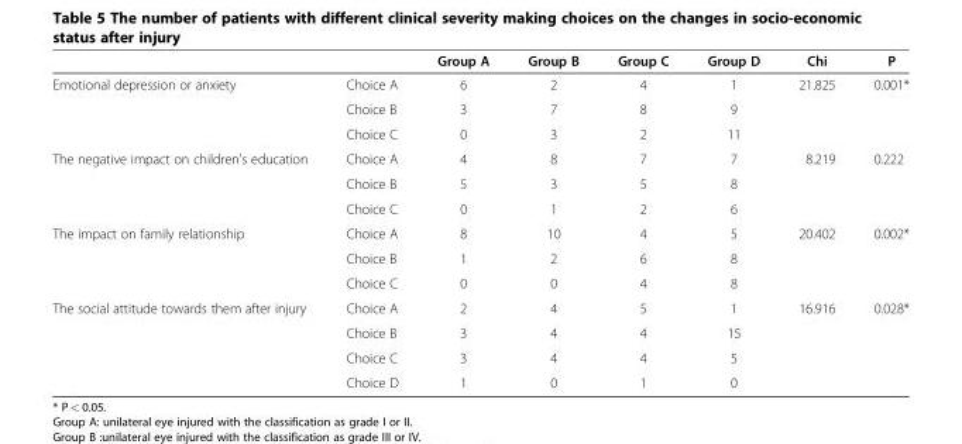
<table><thead><tr><td></td><td></td><td>Group A</td><td>Group B</td><td>Group C</td><td>Group D</td><td>Chi</td><td>P</td></tr></thead><tbody><tr><td rowspan="3">Emotional depression or anxiety</td><td>Choice A</td><td>6</td><td>2</td><td>4</td><td>1</td><td>21.825</td><td>0.001*</td></tr><tr><td>Choice B</td><td>3</td><td>7</td><td>8</td><td>9</td><td></td><td></td></tr><tr><td>Choice C</td><td>0</td><td>3</td><td>2</td><td>11</td><td></td><td></td></tr><tr><td rowspan="3">The negative impact on children&#x27;s education</td><td>Choice A</td><td>4</td><td>8</td><td>7</td><td>7</td><td>8.219</td><td>0.222</td></tr><tr><td>Choice B</td><td>5</td><td>3</td><td>5</td><td>8</td><td></td><td></td></tr><tr><td>Choice C</td><td>0</td><td>1</td><td>2</td><td>6</td><td></td><td></td></tr><tr><td rowspan="3">The impact on family relationship</td><td>Choice A</td><td>8</td><td>10</td><td>4</td><td>5</td><td>20.402</td><td>0.002*</td></tr><tr><td>Choice B</td><td>1</td><td>2</td><td>6</td><td>8</td><td></td><td></td></tr><tr><td>Choice C</td><td>0</td><td>0</td><td>4</td><td>8</td><td></td><td></td></tr><tr><td rowspan="4">The social attitude towards them after injury</td><td>Choice A</td><td>2</td><td>4</td><td>5</td><td>1</td><td>16.916</td><td>0.028*</td></tr><tr><td>Choice B</td><td>3</td><td>4</td><td>4</td><td>15</td><td></td><td></td></tr><tr><td>Choice C</td><td>3</td><td>4</td><td>4</td><td>5</td><td></td><td></td></tr><tr><td>Choice D</td><td>1</td><td>0</td><td>1</td><td>0</td><td></td><td></td></tr></tbody></table>